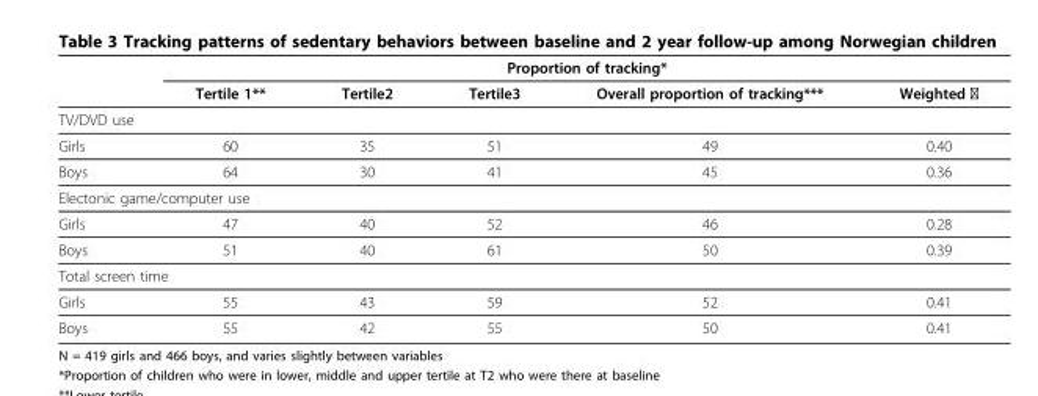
<table><thead><tr><td rowspan="2"></td><td colspan="5">Proportion of tracking*</td></tr><tr><td>Tertile 1**</td><td>Tertile2</td><td>Tertile3</td><td>Overall proportion of tracking***</td><td>Weighted ᵏ</td></tr></thead><tbody><tr><td colspan="6">TV/DVD use</td></tr><tr><td>Girls</td><td>60</td><td>35</td><td>51</td><td>49</td><td>0.40</td></tr><tr><td>Boys</td><td>64</td><td>30</td><td>41</td><td>45</td><td>0.36</td></tr><tr><td colspan="6">Electonic game/computer use</td></tr><tr><td>Girls</td><td>47</td><td>40</td><td>52</td><td>46</td><td>0.28</td></tr><tr><td>Boys</td><td>51</td><td>40</td><td>61</td><td>50</td><td>0.39</td></tr><tr><td colspan="6">Total screen time</td></tr><tr><td>Girls</td><td>55</td><td>43</td><td>59</td><td>52</td><td>0.41</td></tr><tr><td>Boys</td><td>55</td><td>42</td><td>55</td><td>50</td><td>0.41</td></tr></tbody></table>